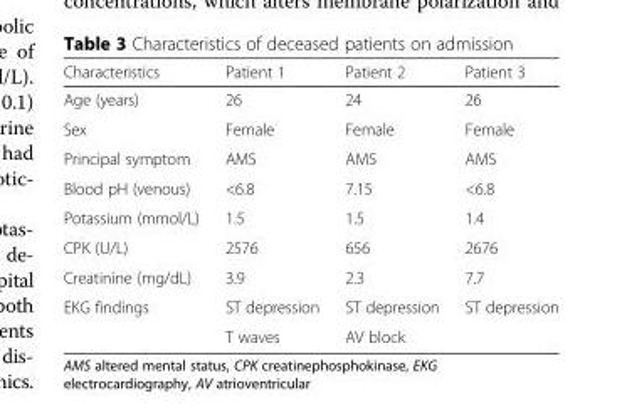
<table><thead><tr><td>Characteristics</td><td>Patient 1</td><td>Patient 2</td><td>Patient 3</td></tr></thead><tbody><tr><td>Age (years)</td><td>26</td><td>24</td><td>26</td></tr><tr><td>Sex</td><td>Female</td><td>Female</td><td>Female</td></tr><tr><td>Principal symptom</td><td>AMS</td><td>AMS</td><td>AMS</td></tr><tr><td>Blood pH (venous)</td><td>&lt;6.8</td><td>7.15</td><td>&lt;6.8</td></tr><tr><td>Potassium (mmol/L)</td><td>1.5</td><td>1.5</td><td>1.4</td></tr><tr><td>CPK (U/L)</td><td>2576</td><td>656</td><td>2676</td></tr><tr><td>Creatinine (mg/dL)</td><td>3.9</td><td>2.3</td><td>7.7</td></tr><tr><td rowspan="2">EKG findings</td><td>ST depression</td><td>ST depression</td><td>ST depression</td></tr><tr><td>T waves</td><td>AV block</td><td></td></tr></tbody></table>